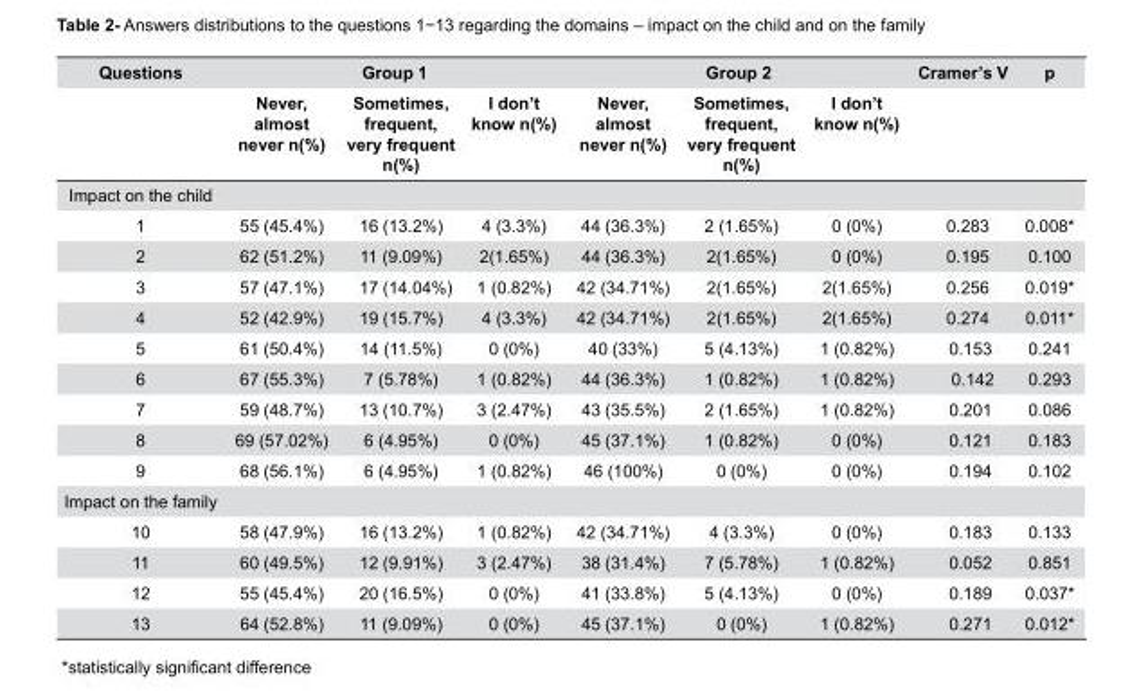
<table><thead><tr><td rowspan="2">Questions</td><td rowspan="2">Never, almost never n(%)</td><td rowspan="2">Group 1 Sometimes, frequent, very frequent n(%)</td><td rowspan="2">I don’t know n(%)</td><td rowspan="2">Never, almost never n(%)</td><td rowspan="2">Group 2 Sometimes, frequent, very frequent n(%)</td><td rowspan="2">I don’t know n(%)</td><td rowspan="2">Cramer’s V</td><td rowspan="2">p</td></tr><tr></tr></thead><tbody><tr><td colspan="9">Impact on the child</td></tr><tr><td>1</td><td>55 (45.4%)</td><td>16 (13.2%)</td><td>4 (3.3%)</td><td>44 (36.3%)</td><td>2 (1.65%)</td><td>0 (0%)</td><td>0.283</td><td>0.008*</td></tr><tr><td>2</td><td>62 (51.2%)</td><td>11 (9.09%)</td><td>2(1.65%)</td><td>44 (36.3%)</td><td>2(1.65%)</td><td>0 (0%)</td><td>0.195</td><td>0.100</td></tr><tr><td>3</td><td>57 (47.1%)</td><td>17 (14.04%)</td><td>1 (0.82%)</td><td>42 (34.71%)</td><td>2(1.65%)</td><td>2(1.65%)</td><td>0.256</td><td>0.019*</td></tr><tr><td>4</td><td>52 (42.9%)</td><td>19 (15.7%)</td><td>4 (3.3%)</td><td>42 (34.71%)</td><td>2(1.65%)</td><td>2(1.65%)</td><td>0.274</td><td>0.011*</td></tr><tr><td>5</td><td>61 (50.4%)</td><td>14 (11.5%)</td><td>0 (0%)</td><td>40 (33%)</td><td>5 (4.13%)</td><td>1 (0.82%)</td><td>0.153</td><td>0.241</td></tr><tr><td>6</td><td>67 (55.3%)</td><td>7 (5.78%)</td><td>1 (0.82%)</td><td>44 (36.3%)</td><td>1 (0.82%)</td><td>1 (0.82%)</td><td>0.142</td><td>0.293</td></tr><tr><td>7</td><td>59 (48.7%)</td><td>13 (10.7%)</td><td>3 (2.47%)</td><td>43 (35.5%)</td><td>2 (1.65%)</td><td>1 (0.82%)</td><td>0.201</td><td>0.086</td></tr><tr><td>8</td><td>69 (57.02%)</td><td>6 (4.95%)</td><td>0 (0%)</td><td>45 (37.1%)</td><td>1 (0.82%)</td><td>0 (0%)</td><td>0.121</td><td>0.183</td></tr><tr><td>9</td><td>68 (56.1%)</td><td>6 (4.95%)</td><td>1 (0.82%)</td><td>46 (100%)</td><td>0 (0%)</td><td>0 (0%)</td><td>0.194</td><td>0.102</td></tr><tr><td colspan="9">Impact on the family</td></tr><tr><td>10</td><td>58 (47.9%)</td><td>16 (13.2%)</td><td>1 (0.82%)</td><td>42 (34.71%)</td><td>4 (3.3%)</td><td>0 (0%)</td><td>0.183</td><td>0.133</td></tr><tr><td>11</td><td>60 (49.5%)</td><td>12 (9.91%)</td><td>3 (2.47%)</td><td>38 (31.4%)</td><td>7 (5.78%)</td><td>1 (0.82%)</td><td>0.052</td><td>0.851</td></tr><tr><td>12</td><td>55 (45.4%)</td><td>20 (16.5%)</td><td>0 (0%)</td><td>41 (33.8%)</td><td>5 (4.13%)</td><td>0 (0%)</td><td>0.189</td><td>0.037*</td></tr><tr><td>13</td><td>64 (52.8%)</td><td>11 (9.09%)</td><td>0 (0%)</td><td>45 (37.1%)</td><td>0 (0%)</td><td>1 (0.82%)</td><td>0.271</td><td>0.012*</td></tr></tbody></table>